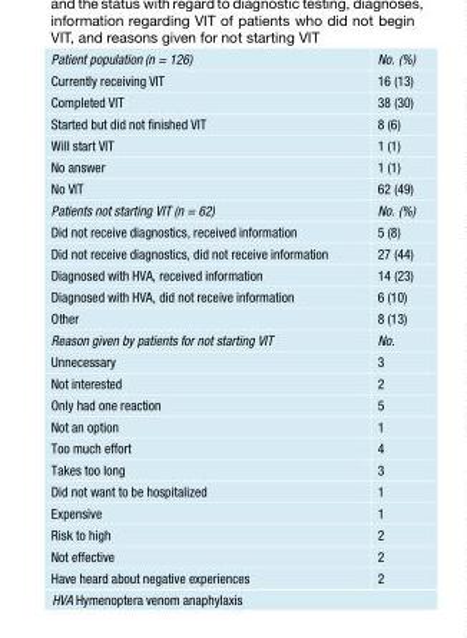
<table><tbody><tr><td>Patient population (n = 126)</td><td>No. (%)</td></tr><tr><td>Currently receiving VIT</td><td>16 (13)</td></tr><tr><td>Completed VIT</td><td>38 (30)</td></tr><tr><td>Started but did not finished VIT</td><td>8 (6)</td></tr><tr><td>Will start VIT</td><td>1 (1)</td></tr><tr><td>No answer</td><td>1 (1)</td></tr><tr><td>No VIT</td><td>62 (49)</td></tr><tr><td>Patients not starting VIT (n = 62)</td><td>No. (%)</td></tr><tr><td>Did not receive diagnostics, received information</td><td>5 (8)</td></tr><tr><td>Did not receive diagnostics, did not receive information</td><td>27 (44)</td></tr><tr><td>Diagnosed with HVA, received information</td><td>14 (23)</td></tr><tr><td>Diagnosed with HVA, did not receive information</td><td>6 (10)</td></tr><tr><td>Other</td><td>8 (13)</td></tr><tr><td>Reason given by patients for not starting VIT</td><td>No.</td></tr><tr><td>Unnecessary</td><td>3</td></tr><tr><td>Not interested</td><td>2</td></tr><tr><td>Only had one reaction</td><td>5</td></tr><tr><td>Not an option</td><td>1</td></tr><tr><td>Too much effort</td><td>4</td></tr><tr><td>Takes too long</td><td>3</td></tr><tr><td>Did not want to be hospitalized</td><td>1</td></tr><tr><td>Expensive</td><td>1</td></tr><tr><td>Risk to high</td><td>2</td></tr><tr><td>Not effective</td><td>2</td></tr><tr><td>Have heard about negative experiences</td><td>2</td></tr></tbody></table>